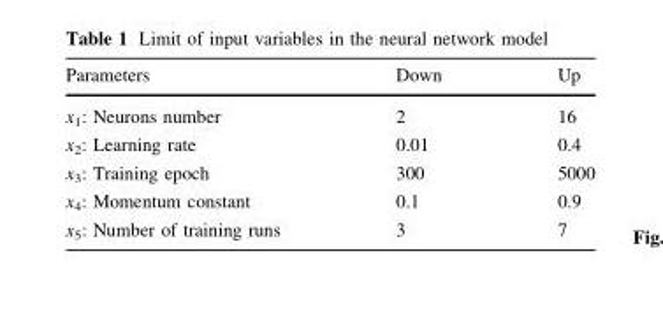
<table><thead><tr><td>Parameters</td><td>Down</td><td>Up</td></tr></thead><tbody><tr><td>x<sub>1</sub>: Neurons number</td><td>2</td><td>16</td></tr><tr><td>x<sub>2</sub>: Learning rate</td><td>0.01</td><td>0.4</td></tr><tr><td>x<sub>3</sub>: Training epoch</td><td>300</td><td>5000</td></tr><tr><td>x<sub>4</sub>: Momentum constant</td><td>0.1</td><td>0.9</td></tr><tr><td>x<sub>5</sub>: Number of training runs</td><td>3</td><td>7</td></tr></tbody></table>